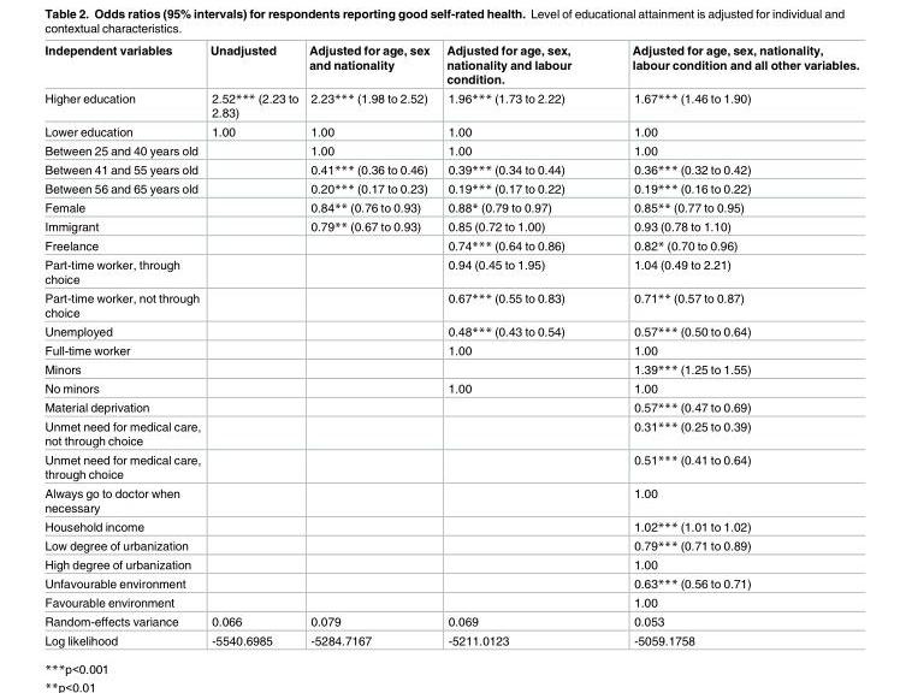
<table><thead><tr><td>Independent variables</td><td>Unadjusted</td><td>Adjusted for age, sex and nationality</td><td>Adjusted for age, sex, nationality and labour condition.</td><td>Adjusted for age, sex, nationality, labour condition and all other variables.</td></tr></thead><tbody><tr><td>Higher education</td><td>2.52*** (2.23 to 2.83)</td><td>2.23*** (1.98 to 2.52)</td><td>1.96*** (1.73 to 2.22)</td><td>1.67*** (1.46 to 1.90)</td></tr><tr><td>Lower education</td><td>1.00</td><td>1.00</td><td>1.00</td><td>1.00</td></tr><tr><td>Between 25 and 40 years old</td><td></td><td>1.00</td><td>1.00</td><td>1.00</td></tr><tr><td>Between 41 and 55 years old</td><td></td><td>0.41*** (0.36 to 0.46)</td><td>0.39*** (0.34 to 0.44)</td><td>0.36*** (0.32 to 0.42)</td></tr><tr><td>Between 56 and 65 years old</td><td></td><td>0.20*** (0.17 to 0.23)</td><td>0.19*** (0.17 to 0.22)</td><td>0.19*** (0.16 to 0.22)</td></tr><tr><td>Female</td><td></td><td>0.84** (0.76 to 0.93)</td><td>0.88* (0.79 to 0.97)</td><td>0.85** (0.77 to 0.95)</td></tr><tr><td>Immigrant</td><td></td><td>0.79** (0.67 to 0.93)</td><td>0.85 (0.72 to 1.00)</td><td>0.93 (0.78 to 1.10)</td></tr><tr><td>Freelance</td><td></td><td></td><td>0.74*** (0.64 to 0.86)</td><td>0.82* (0.70 to 0.96)</td></tr><tr><td>Part-time worker, through choice</td><td></td><td></td><td>0.94 (0.45 to 1.95)</td><td>1.04 (0.49 to 2.21)</td></tr><tr><td>Part-time worker, not through choice</td><td></td><td></td><td>0.67*** (0.55 to 0.83)</td><td>0.71** (0.57 to 0.87)</td></tr><tr><td>Unemployed</td><td></td><td></td><td>0.48*** (0.43 to 0.54)</td><td>0.57*** (0.50 to 0.64)</td></tr><tr><td>Full-time worker</td><td></td><td></td><td>1.00</td><td>1.00</td></tr><tr><td>Minors</td><td></td><td></td><td></td><td>1.39*** (1.25 to 1.55)</td></tr><tr><td>No minors</td><td></td><td></td><td>1.00</td><td>1.00</td></tr><tr><td>Material deprivation</td><td></td><td></td><td></td><td>0.57*** (0.47 to 0.69)</td></tr><tr><td>Unmet need for medical care, not through choice</td><td></td><td></td><td></td><td>0.31*** (0.25 to 0.39)</td></tr><tr><td>Unmet need for medical care, through choice</td><td></td><td></td><td></td><td>0.51*** (0.41 to 0.64)</td></tr><tr><td>Always go to doctor when necessary</td><td></td><td></td><td></td><td>1.00</td></tr><tr><td>Household income</td><td></td><td></td><td></td><td>1.02*** (1.01 to 1.02)</td></tr><tr><td>Low degree of urbanization</td><td></td><td></td><td></td><td>0.79*** (0.71 to 0.89)</td></tr><tr><td>High degree of urbanization</td><td></td><td></td><td></td><td>1.00</td></tr><tr><td>Unfavourable environment</td><td></td><td></td><td></td><td>0.63*** (0.56 to 0.71)</td></tr><tr><td>Favourable environment</td><td></td><td></td><td></td><td>1.00</td></tr><tr><td>Random-effects variance</td><td>0.066</td><td>0.079</td><td>0.069</td><td>0.053</td></tr><tr><td>Log likelihood</td><td>-5540.6985</td><td>-5284.7167</td><td>-5211.0123</td><td>-5059.1758</td></tr></tbody></table>